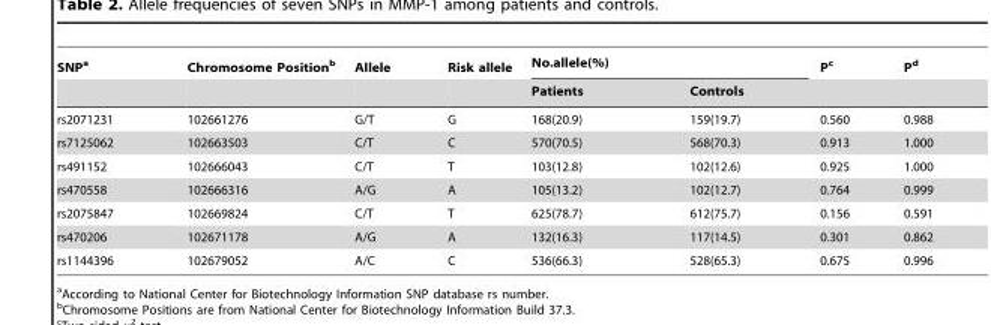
<table><thead><tr><td rowspan="2">SNP<sup>a</sup></td><td rowspan="2">Chromosome Position<sup>b</sup></td><td rowspan="2">Allele</td><td rowspan="2">Risk allele</td><td colspan="2">No.allele(%)</td><td rowspan="2">P<sup>c</sup></td><td rowspan="2">P<sup>d</sup></td></tr><tr><td>Patients</td><td>Controls</td></tr></thead><tbody><tr><td>rs2071231</td><td>102661276</td><td>G/T</td><td>G</td><td>168(20.9)</td><td>159(19.7)</td><td>0.560</td><td>0.988</td></tr><tr><td>rs7125062</td><td>102663503</td><td>C/T</td><td>C</td><td>570(70.5)</td><td>568(70.3)</td><td>0.913</td><td>1.000</td></tr><tr><td>rs491152</td><td>102666043</td><td>C/T</td><td>T</td><td>103(12.8)</td><td>102(12.6)</td><td>0.925</td><td>1.000</td></tr><tr><td>rs470558</td><td>102666316</td><td>A/G</td><td>A</td><td>105(13.2)</td><td>102(12.7)</td><td>0.764</td><td>0.999</td></tr><tr><td>rs2075847</td><td>102669824</td><td>C/T</td><td>T</td><td>625(78.7)</td><td>612(75.7)</td><td>0.156</td><td>0.591</td></tr><tr><td>rs470206</td><td>102671178</td><td>A/G</td><td>A</td><td>132(16.3)</td><td>117(14.5)</td><td>0.301</td><td>0.862</td></tr><tr><td>rs1144396</td><td>102679052</td><td>A/C</td><td>C</td><td>536(66.3)</td><td>528(65.3)</td><td>0.675</td><td>0.996</td></tr></tbody></table>